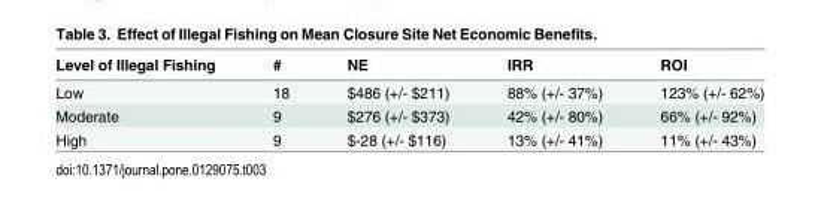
<table><thead><tr><td>Level of Illegal Fishing</td><td>#</td><td>NE</td><td>IRR</td><td>ROI</td></tr></thead><tbody><tr><td>Low</td><td>18</td><td>$486 (+/- $211)</td><td>88% (+/- 37%)</td><td>123% (+/- 62%)</td></tr><tr><td>Moderate</td><td>9</td><td>$276 (+/- $373)</td><td>42% (+/- 80%)</td><td>66% (+/- 92%)</td></tr><tr><td>High</td><td>9</td><td>$-28 (+/- $116)</td><td>13% (+/- 41%)</td><td>11% (+/- 43%)</td></tr></tbody></table>